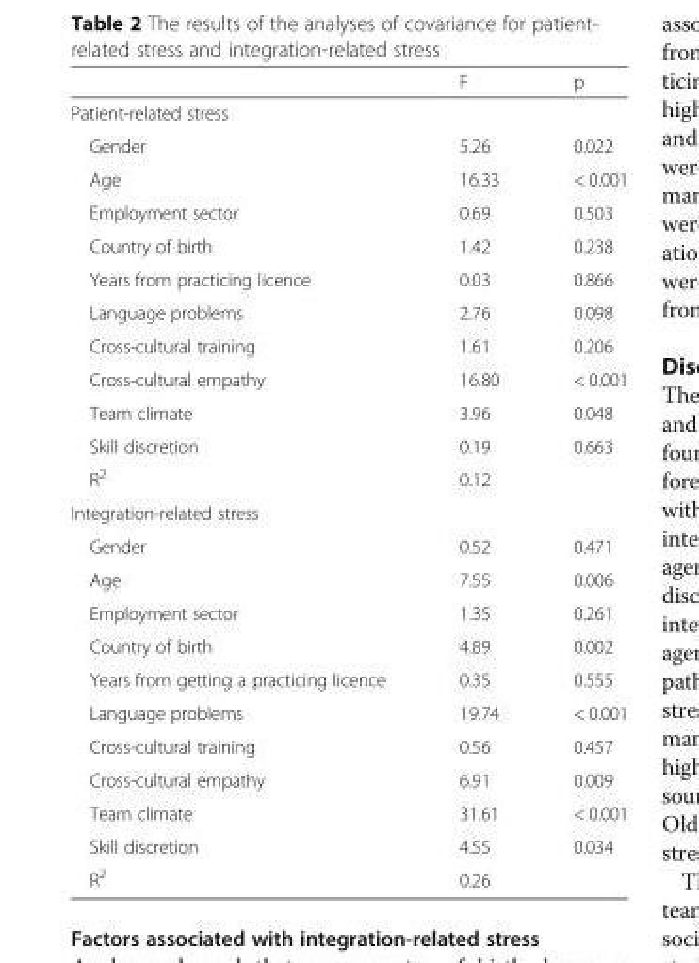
<table><thead><tr><td></td><td>F</td><td>p</td></tr></thead><tbody><tr><td colspan="3">Patient-related stress</td></tr><tr><td>Gender</td><td>5.26</td><td>0.022</td></tr><tr><td>Age</td><td>16.33</td><td>&lt; 0.001</td></tr><tr><td>Employment sector</td><td>0.69</td><td>0.503</td></tr><tr><td>Country of birth</td><td>1.42</td><td>0.238</td></tr><tr><td>Years from practicing licence</td><td>0.03</td><td>0.866</td></tr><tr><td>Language problems</td><td>2.76</td><td>0.098</td></tr><tr><td>Cross-cultural training</td><td>1.61</td><td>0.206</td></tr><tr><td>Cross-cultural empathy</td><td>16.80</td><td>&lt; 0.001</td></tr><tr><td>Team climate</td><td>3.96</td><td>0.048</td></tr><tr><td>Skill discretion</td><td>0.19</td><td>0.663</td></tr><tr><td>R<sup>2</sup></td><td>0.12</td><td></td></tr><tr><td colspan="3">Integration-related stress</td></tr><tr><td>Gender</td><td>0.52</td><td>0.471</td></tr><tr><td>Age</td><td>7.55</td><td>0.006</td></tr><tr><td>Employment sector</td><td>1.35</td><td>0.261</td></tr><tr><td>Country of birth</td><td>4.89</td><td>0.002</td></tr><tr><td>Years from getting a practicing licence</td><td>0.35</td><td>0.555</td></tr><tr><td>Language problems</td><td>19.74</td><td>&lt; 0.001</td></tr><tr><td>Cross-cultural training</td><td>0.56</td><td>0.457</td></tr><tr><td>Cross-cultural empathy</td><td>6.91</td><td>0.009</td></tr><tr><td>Team climate</td><td>31.61</td><td>&lt; 0.001</td></tr><tr><td>Skill discretion</td><td>4.55</td><td>0.034</td></tr><tr><td>R<sup>2</sup></td><td>0.26</td><td></td></tr></tbody></table>